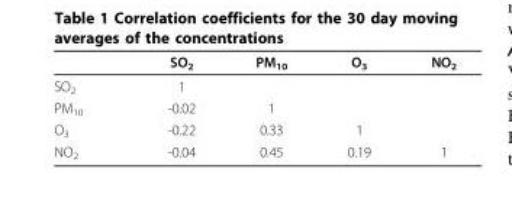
<table><thead><tr><td></td><td>SO<sub>2</sub></td><td>PM<sub>10</sub></td><td>O<sub>3</sub></td><td>NO<sub>2</sub></td></tr></thead><tbody><tr><td>SO<sub>2</sub></td><td>1</td><td></td><td></td><td></td></tr><tr><td>PM<sub>10</sub></td><td>-0.02</td><td>1</td><td></td><td></td></tr><tr><td>O<sub>3</sub></td><td>-0.22</td><td>0.33</td><td>1</td><td></td></tr><tr><td>NO<sub>2</sub></td><td>-0.04</td><td>0.45</td><td>0.19</td><td>1</td></tr></tbody></table>